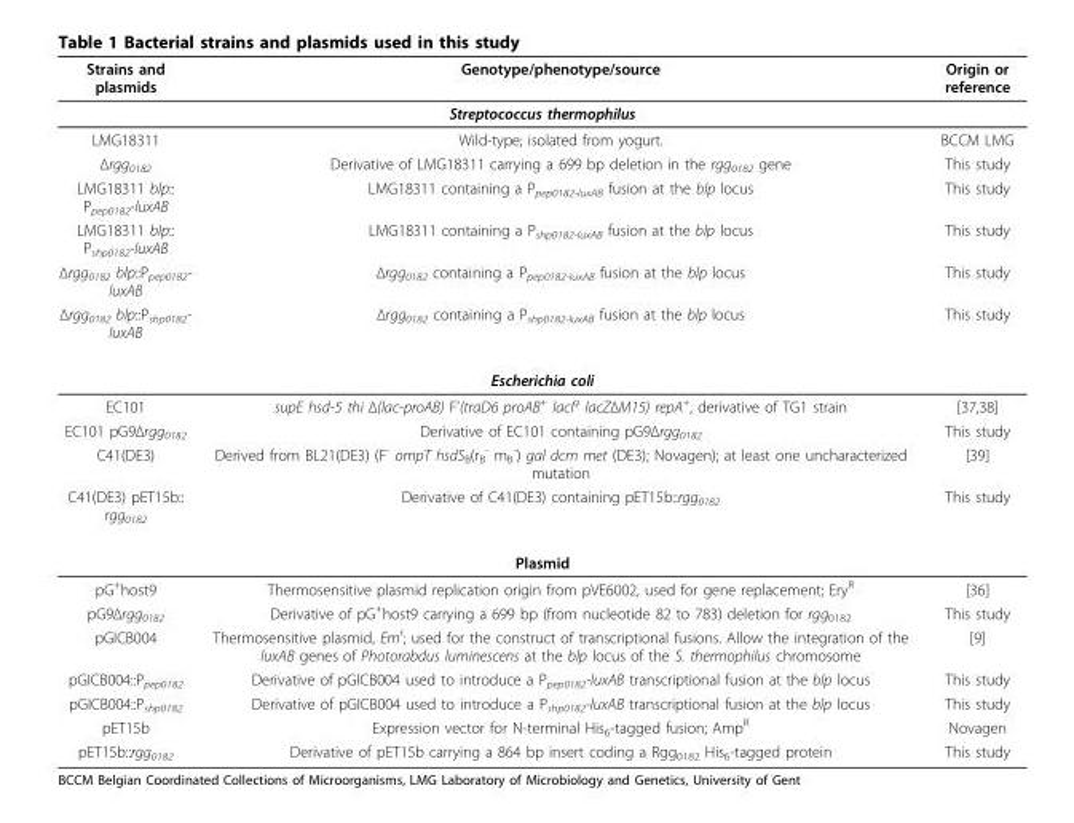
<table><thead><tr><td>Strains and plasmids</td><td>Genotype/phenotype/source</td><td>Origin or reference</td></tr></thead><tbody><tr><td colspan="3">Streptococcus thermophilus</td></tr><tr><td>LMG18311</td><td>Wild-type; isolated from yogurt.</td><td>BCCM LMG</td></tr><tr><td>Δrgg<sub>0182</sub></td><td>Derivative of LMG18311 carrying a 699 bp deletion in the rgg<sub>0182</sub> gene</td><td>This study</td></tr><tr><td>LMG18311 blp:: P<sub>pep0182</sub>-luxAB</td><td>LMG18311 containing a P<sub>pep0182-luxAB</sub> fusion at the blp locus</td><td>This study</td></tr><tr><td>LMG18311 blp:: P<sub>shp0182</sub>-luxAB</td><td>LMG18311 containing a P<sub>shp0182-luxAB</sub> fusion at the blp locus</td><td>This study</td></tr><tr><td>Δrgg<sub>0182</sub> blp::P<sub>pep0182</sub>- luxAB</td><td>Δrgg<sub>0182</sub> containing a P<sub>pep0182-luxAB</sub> fusion at the blp locus</td><td>This study</td></tr><tr><td>Δrgg<sub>0182</sub> blp::P<sub>shp0182</sub>- luxAB</td><td>Δrgg<sub>0182</sub> containing a P<sub>shp0182-luxAB</sub> fusion at the blp locus</td><td>This study</td></tr><tr><td colspan="3">Escherichia coli</td></tr><tr><td>EC101</td><td>supE hsd-5 thi Δ(lac-proAB) F’(traD6 proAB<sup>+</sup> lacI<sup>q</sup> lacZΔM15) repA<sup>+</sup>, derivative of TG1 strain</td><td>[37,38]</td></tr><tr><td>EC101 pG9Δrgg<sub>0182</sub></td><td>Derivative of EC101 containing pG9Δrgg<sub>0182</sub></td><td>This study</td></tr><tr><td>C41(DE3)</td><td>Derived from BL21(DE3) (F<sup>-</sup> ompT hsdS<sub>B</sub>(r<sub>B</sub> <sup>-</sup> m<sub>B</sub> <sup>-</sup>) gal dcm met (DE3); Novagen); at least one uncharacterized mutation</td><td>[39]</td></tr><tr><td>C41(DE3) pET15b:: rgg<sub>0182</sub></td><td>Derivative of C41(DE3) containing pET15b::rgg<sub>0182</sub></td><td>This study</td></tr><tr><td colspan="3">Plasmid</td></tr><tr><td>pG<sup>+</sup>host9</td><td>Thermosensitive plasmid replication origin from pVE6002, used for gene replacement; Ery<sup>R</sup></td><td>[36]</td></tr><tr><td>pG9Δrgg<sub>0182</sub></td><td>Derivative of pG<sup>+</sup>host9 carrying a 699 bp (from nucleotide 82 to 783) deletion for rgg<sub>0182</sub></td><td>This study</td></tr><tr><td>pGICB004</td><td>Thermosensitive plasmid, Em<sup>r</sup>; used for the construct of transcriptional fusions. Allow the integration of the luxAB genes of Photorabdus luminescens at the blp locus of the S. thermophilus chromosome</td><td>[9]</td></tr><tr><td>pGICB004::P<sub>pep0182</sub></td><td>Derivative of pGICB004 used to introduce a P<sub>pep0182</sub>-luxAB transcriptional fusion at the blp locus</td><td>This study</td></tr><tr><td>pGICB004::P<sub>shp0182</sub></td><td>Derivative of pGICB004 used to introduce a P<sub>shp0182</sub>-luxAB transcriptional fusion at the blp locus</td><td>This study</td></tr><tr><td>pET15b</td><td>Expression vector for N-terminal His<sub>6</sub>-tagged fusion; Amp<sup>R</sup></td><td>Novagen</td></tr><tr><td>pET15b::rgg<sub>0182</sub></td><td>Derivative of pET15b carrying a 864 bp insert coding a Rgg<sub>0182</sub> His<sub>6</sub>-tagged protein</td><td>This study</td></tr></tbody></table>